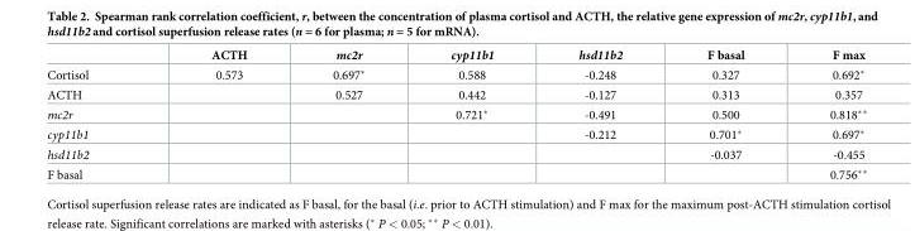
<table><thead><tr><td></td><td>ACTH</td><td>mc2r</td><td>cyp11b1</td><td>hsd11b2</td><td>F basal</td><td>F max</td></tr></thead><tbody><tr><td>Cortisol</td><td>0.573</td><td>0.697*</td><td>0.588</td><td>-0.248</td><td>0.327</td><td>0.692*</td></tr><tr><td>ACTH</td><td></td><td>0.527</td><td>0.442</td><td>-0.127</td><td>0.313</td><td>0.357</td></tr><tr><td>mc2r</td><td></td><td></td><td>0.721*</td><td>-0.491</td><td>0.500</td><td>0.818**</td></tr><tr><td>cyp11b1</td><td></td><td></td><td></td><td>-0.212</td><td>0.701*</td><td>0.697*</td></tr><tr><td>hsd11b2</td><td></td><td></td><td></td><td></td><td>-0.037</td><td>-0.455</td></tr><tr><td>F basal</td><td></td><td></td><td></td><td></td><td></td><td>0.756**</td></tr></tbody></table>